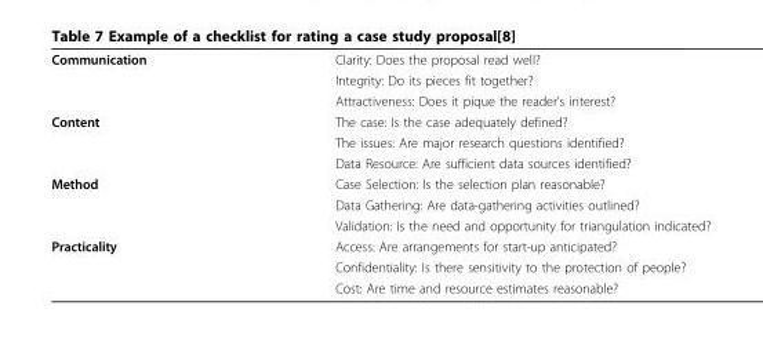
<table><tbody><tr><td rowspan="3">Communication</td><td>Clarity: Does the proposal read well?</td></tr><tr><td>Integrity: Do its pieces fit together?</td></tr><tr><td>Attractiveness: Does it pique the reader’s interest?</td></tr><tr><td rowspan="3">Content</td><td>The case: Is the case adequately defined?</td></tr><tr><td>The issues: Are major research questions identified?</td></tr><tr><td>Data Resource: Are sufficient data sources identified?</td></tr><tr><td rowspan="3">Method</td><td>Case Selection: Is the selection plan reasonable?</td></tr><tr><td>Data Gathering: Are data-gathering activities outlined?</td></tr><tr><td>Validation: Is the need and opportunity for triangulation indicated?</td></tr><tr><td rowspan="3">Practicality</td><td>Access: Are arrangements for start-up anticipated?</td></tr><tr><td>Confidentiality: Is there sensitivity to the protection of people?</td></tr><tr><td>Cost: Are time and resource estimates reasonable?</td></tr></tbody></table>